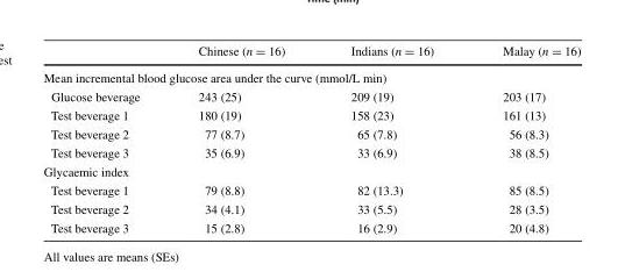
<table><thead><tr><td></td><td>Chinese (n = 16)</td><td>Indians (n = 16)</td><td>Malay (n = 16)</td></tr></thead><tbody><tr><td colspan="4">Mean incremental blood glucose area under the curve (mmol/L min)</td></tr><tr><td>Glucose beverage</td><td>243 (25)</td><td>209 (19)</td><td>203 (17)</td></tr><tr><td>Test beverage 1</td><td>180 (19)</td><td>158 (23)</td><td>161 (13)</td></tr><tr><td>Test beverage 2</td><td>77 (8.7)</td><td>65 (7.8)</td><td>56 (8.3)</td></tr><tr><td>Test beverage 3</td><td>35 (6.9)</td><td>33 (6.9)</td><td>38 (8.5)</td></tr><tr><td colspan="4">Glycaemic index</td></tr><tr><td>Test beverage 1</td><td>79 (8.8)</td><td>82 (13.3)</td><td>85 (8.5)</td></tr><tr><td>Test beverage 2</td><td>34 (4.1)</td><td>33 (5.5)</td><td>28 (3.5)</td></tr><tr><td>Test beverage 3</td><td>15 (2.8)</td><td>16 (2.9)</td><td>20 (4.8)</td></tr></tbody></table>